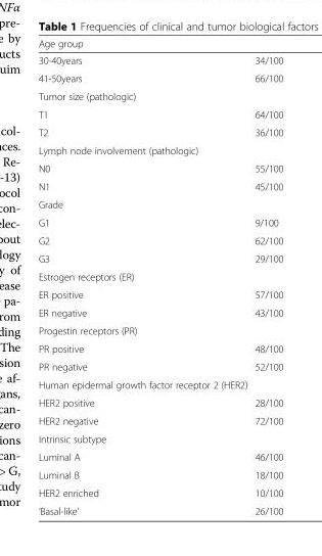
<table><thead><tr><td colspan="2">Age group</td></tr><tr><td>30-40years</td><td>34/100</td></tr></thead><tbody><tr><td>41-50years</td><td>66/100</td></tr><tr><td colspan="2">Tumor size (pathologic)</td></tr><tr><td>T1</td><td>64/100</td></tr><tr><td>T2</td><td>36/100</td></tr><tr><td colspan="2">Lymph node involvement (pathologic)</td></tr><tr><td>N0</td><td>55/100</td></tr><tr><td>N1</td><td>45/100</td></tr><tr><td colspan="2">Grade</td></tr><tr><td>G1</td><td>9/100</td></tr><tr><td>G2</td><td>62/100</td></tr><tr><td>G3</td><td>29/100</td></tr><tr><td colspan="2">Estrogen receptors (ER)</td></tr><tr><td>ER positive</td><td>57/100</td></tr><tr><td>ER negative</td><td>43/100</td></tr><tr><td colspan="2">Progestin receptors (PR)</td></tr><tr><td>PR positive</td><td>48/100</td></tr><tr><td>PR negative</td><td>52/100</td></tr><tr><td colspan="2">Human epidermal growth factor receptor 2 (HER2)</td></tr><tr><td>HER2 positive</td><td>28/100</td></tr><tr><td>HER2 negative</td><td>72/100</td></tr><tr><td colspan="2">Intrinsic subtype</td></tr><tr><td>Luminal A</td><td>46/100</td></tr><tr><td>Luminal B</td><td>18/100</td></tr><tr><td>HER2 enriched</td><td>10/100</td></tr><tr><td>‘Basal-like’</td><td>26/100</td></tr></tbody></table>